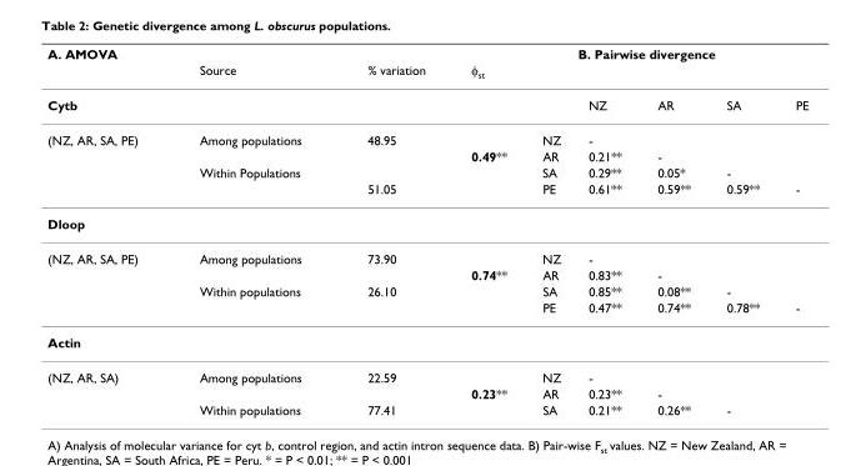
<table><thead><tr><td rowspan="2">A. AMOVA</td><td rowspan="2">Source</td><td rowspan="2">% variation</td><td colspan="6">B. Pairwise divergence</td></tr><tr><td>φ<sub>st</sub></td><td></td><td></td><td></td><td></td><td></td></tr></thead><tbody><tr><td>Cytb</td><td></td><td></td><td></td><td></td><td>NZ</td><td>AR</td><td>SA</td><td>PE</td></tr><tr><td rowspan="4">(NZ, AR, SA, PE)</td><td>Among populations</td><td>48.95</td><td></td><td>NZ</td><td>-</td><td></td><td></td><td></td></tr><tr><td></td><td></td><td>0.49**</td><td>AR</td><td>0.21**</td><td>-</td><td></td><td></td></tr><tr><td>Within Populations</td><td></td><td></td><td>SA</td><td>0.29**</td><td>0.05*</td><td>-</td><td></td></tr><tr><td></td><td>51.05</td><td></td><td>PE</td><td>0.61**</td><td>0.59**</td><td>0.59**</td><td>-</td></tr><tr><td colspan="9">Dloop</td></tr><tr><td rowspan="4">(NZ, AR, SA, PE)</td><td>Among populations</td><td>73.90</td><td></td><td>NZ</td><td>-</td><td></td><td></td><td></td></tr><tr><td></td><td></td><td>0.74**</td><td>AR</td><td>0.83**</td><td>-</td><td></td><td></td></tr><tr><td>Within populations</td><td>26.10</td><td></td><td>SA</td><td>0.85**</td><td>0.08**</td><td>-</td><td></td></tr><tr><td></td><td></td><td></td><td>PE</td><td>0.47**</td><td>0.74**</td><td>0.78**</td><td>-</td></tr><tr><td colspan="9">Actin</td></tr><tr><td rowspan="3">(NZ, AR, SA)</td><td>Among populations</td><td>22.59</td><td></td><td>NZ</td><td>-</td><td></td><td></td><td></td></tr><tr><td></td><td></td><td>0.23**</td><td>AR</td><td>0.23**</td><td>-</td><td></td><td></td></tr><tr><td>Within populations</td><td>77.41</td><td></td><td>SA</td><td>0.21**</td><td>0.26**</td><td>-</td><td></td></tr></tbody></table>